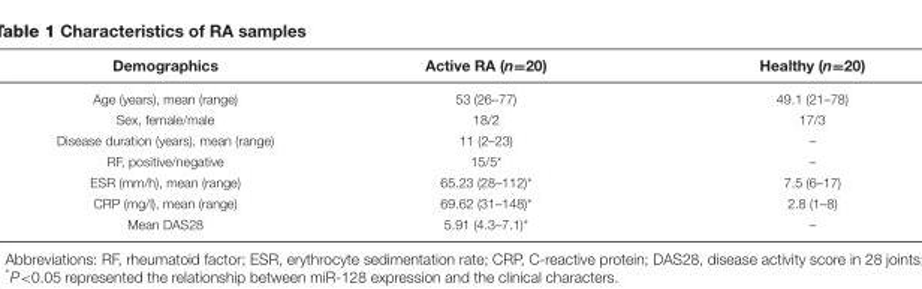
<table><thead><tr><td>Demographics</td><td>Active RA (n=20)</td><td>Healthy (n=20)</td></tr></thead><tbody><tr><td>Age (years), mean (range)</td><td>53 (26–77)</td><td>49.1 (21–78)</td></tr><tr><td>Sex, female/male</td><td>18/2</td><td>17/3</td></tr><tr><td>Disease duration (years), mean (range)</td><td>11 (2–23)</td><td>–</td></tr><tr><td>RF, positive/negative</td><td>15/5*</td><td>–</td></tr><tr><td>ESR (mm/h), mean (range)</td><td>65.23 (28–112)*</td><td>7.5 (6–17)</td></tr><tr><td>CRP (mg/l), mean (range)</td><td>69.62 (31–148)*</td><td>2.8 (1–8)</td></tr><tr><td>Mean DAS28</td><td>5.91 (4.3–7.1)*</td><td>–</td></tr></tbody></table>